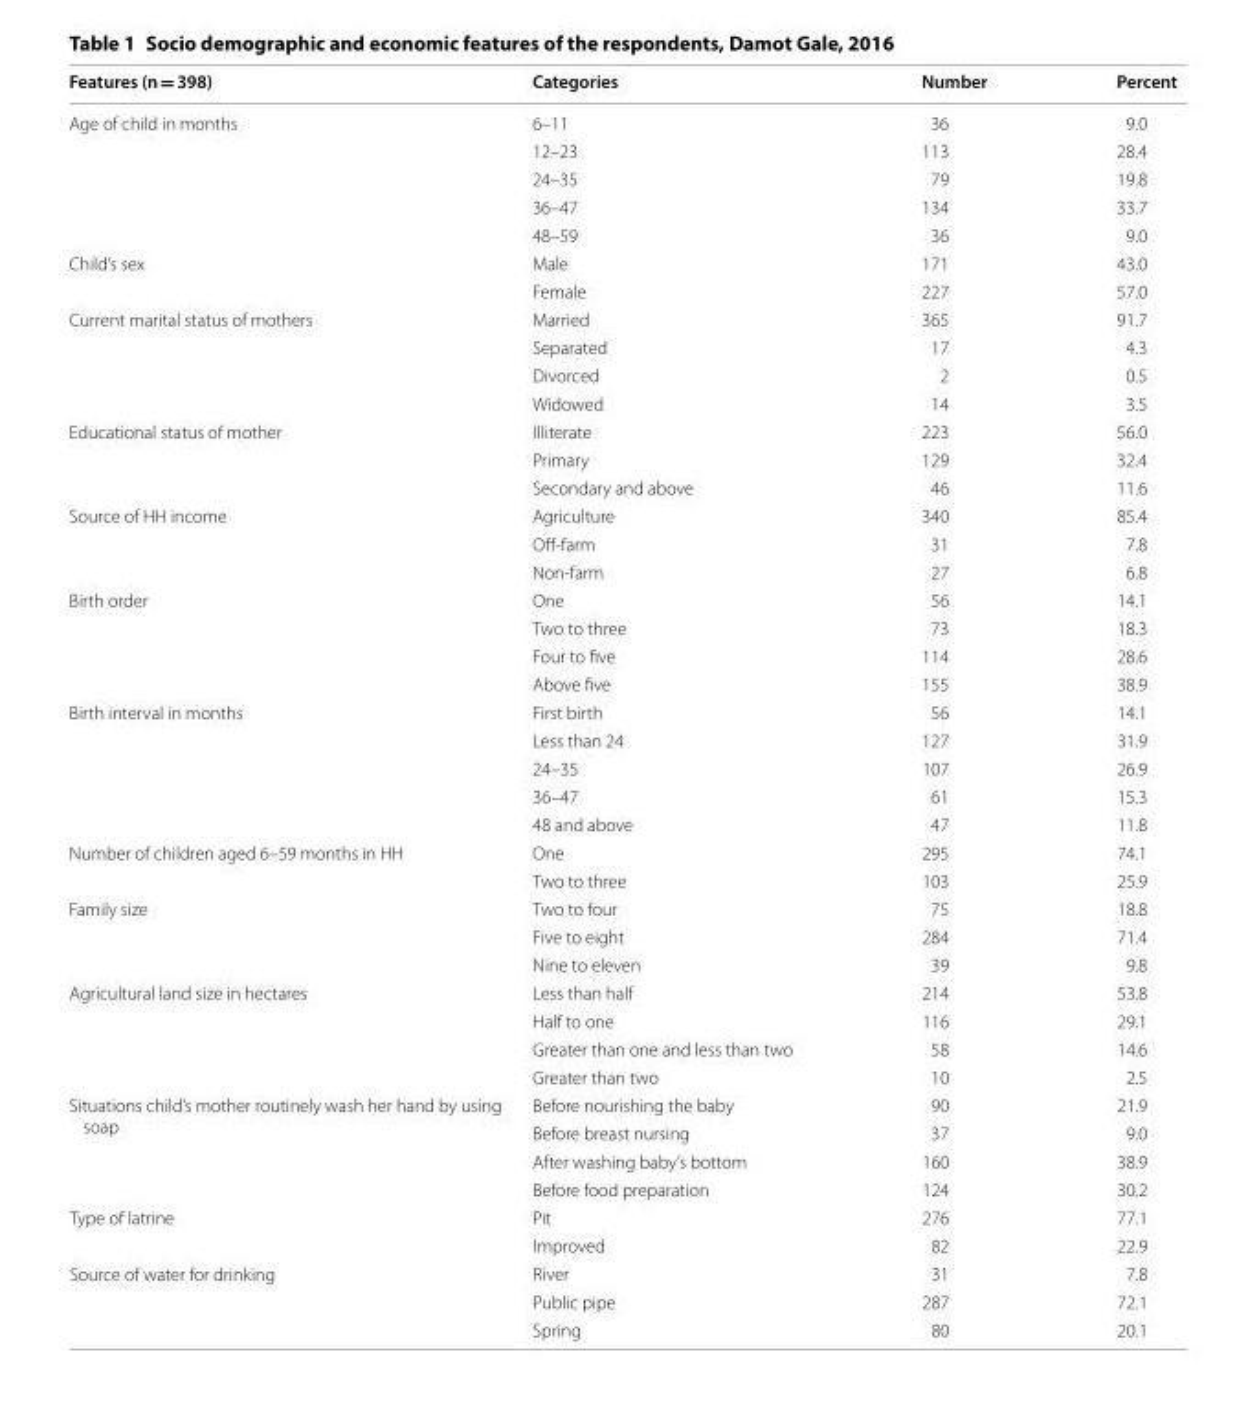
<table><thead><tr><td>Features (n = 398)</td><td>Categories</td><td>Number</td><td>Percent</td></tr></thead><tbody><tr><td rowspan="5">Age of child in months</td><td>6–11</td><td>36</td><td>9.0</td></tr><tr><td>12–23</td><td>113</td><td>28.4</td></tr><tr><td>24–35</td><td>79</td><td>19.8</td></tr><tr><td>36–47</td><td>134</td><td>33.7</td></tr><tr><td>48–59</td><td>36</td><td>9.0</td></tr><tr><td rowspan="2">Child’s sex</td><td>Male</td><td>171</td><td>43.0</td></tr><tr><td>Female</td><td>227</td><td>57.0</td></tr><tr><td rowspan="4">Current marital status of mothers</td><td>Married</td><td>365</td><td>91.7</td></tr><tr><td>Separated</td><td>17</td><td>4.3</td></tr><tr><td>Divorced</td><td>2</td><td>0.5</td></tr><tr><td>Widowed</td><td>14</td><td>3.5</td></tr><tr><td rowspan="3">Educational status of mother</td><td>Illiterate</td><td>223</td><td>56.0</td></tr><tr><td>Primary</td><td>129</td><td>32.4</td></tr><tr><td>Secondary and above</td><td>46</td><td>11.6</td></tr><tr><td rowspan="3">Source of HH income</td><td>Agriculture</td><td>340</td><td>85.4</td></tr><tr><td>Off-farm</td><td>31</td><td>7.8</td></tr><tr><td>Non-farm</td><td>27</td><td>6.8</td></tr><tr><td rowspan="4">Birth order</td><td>One</td><td>56</td><td>14.1</td></tr><tr><td>Two to three</td><td>73</td><td>18.3</td></tr><tr><td>Four to five</td><td>114</td><td>28.6</td></tr><tr><td>Above five</td><td>155</td><td>38.9</td></tr><tr><td rowspan="5">Birth interval in months</td><td>First birth</td><td>56</td><td>14.1</td></tr><tr><td>Less than 24</td><td>127</td><td>31.9</td></tr><tr><td>24–35</td><td>107</td><td>26.9</td></tr><tr><td>36–47</td><td>61</td><td>15.3</td></tr><tr><td>48 and above</td><td>47</td><td>11.8</td></tr><tr><td rowspan="2">Number of children aged 6–59 months in HH</td><td>One</td><td>295</td><td>74.1</td></tr><tr><td>Two to three</td><td>103</td><td>25.9</td></tr><tr><td rowspan="3">Family size</td><td>Two to four</td><td>75</td><td>18.8</td></tr><tr><td>Five to eight</td><td>284</td><td>71.4</td></tr><tr><td>Nine to eleven</td><td>39</td><td>9.8</td></tr><tr><td rowspan="4">Agricultural land size in hectares</td><td>Less than half</td><td>214</td><td>53.8</td></tr><tr><td>Half to one</td><td>116</td><td>29.1</td></tr><tr><td>Greater than one and less than two</td><td>58</td><td>14.6</td></tr><tr><td>Greater than two</td><td>10</td><td>2.5</td></tr><tr><td rowspan="4">Situations child’s mother routinely wash her hand by using soap</td><td>Before nourishing the baby</td><td>90</td><td>21.9</td></tr><tr><td>Before breast nursing</td><td>37</td><td>9.0</td></tr><tr><td>After washing baby’s bottom</td><td>160</td><td>38.9</td></tr><tr><td>Before food preparation</td><td>124</td><td>30.2</td></tr><tr><td rowspan="2">Type of latrine</td><td>Pit</td><td>276</td><td>77.1</td></tr><tr><td>Improved</td><td>82</td><td>22.9</td></tr><tr><td rowspan="3">Source of water for drinking</td><td>River</td><td>31</td><td>7.8</td></tr><tr><td>Public pipe</td><td>287</td><td>72.1</td></tr><tr><td>Spring</td><td>80</td><td>20.1</td></tr></tbody></table>